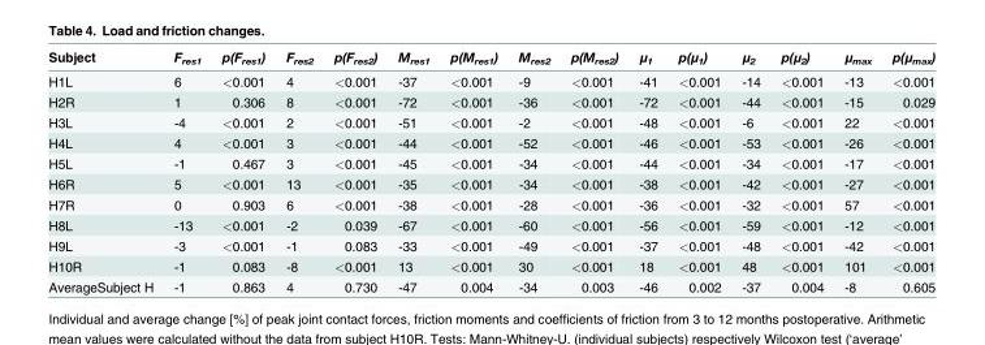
<table><thead><tr><td>Subject</td><td>F<sub>res1</sub></td><td>p(F<sub>res1</sub>)</td><td>F<sub>res2</sub></td><td>p(F<sub>res2</sub>)</td><td>M<sub>res1</sub></td><td>p(M<sub>res1</sub>)</td><td>M<sub>res2</sub></td><td>p(M<sub>res2</sub>)</td><td>μ<sub>1</sub></td><td>p(μ<sub>1</sub>)</td><td>μ<sub>2</sub></td><td>p(μ<sub>2</sub>)</td><td>μ<sub>max</sub></td><td>p(μ<sub>max</sub>)</td></tr></thead><tbody><tr><td>H1L</td><td>6</td><td>&lt;0.001</td><td>4</td><td>&lt;0.001</td><td>-37</td><td>&lt;0.001</td><td>-9</td><td>&lt;0.001</td><td>-41</td><td>&lt;0.001</td><td>-14</td><td>&lt;0.001</td><td>-13</td><td>&lt;0.001</td></tr><tr><td>H2R</td><td>1</td><td>0.306</td><td>8</td><td>&lt;0.001</td><td>-72</td><td>&lt;0.001</td><td>-36</td><td>&lt;0.001</td><td>-72</td><td>&lt;0.001</td><td>-44</td><td>&lt;0.001</td><td>-15</td><td>0.029</td></tr><tr><td>H3L</td><td>-4</td><td>&lt;0.001</td><td>2</td><td>&lt;0.001</td><td>-51</td><td>&lt;0.001</td><td>-2</td><td>&lt;0.001</td><td>-48</td><td>&lt;0.001</td><td>-6</td><td>&lt;0.001</td><td>22</td><td>&lt;0.001</td></tr><tr><td>H4L</td><td>4</td><td>&lt;0.001</td><td>3</td><td>&lt;0.001</td><td>-44</td><td>&lt;0.001</td><td>-52</td><td>&lt;0.001</td><td>-46</td><td>&lt;0.001</td><td>-53</td><td>&lt;0.001</td><td>-26</td><td>&lt;0.001</td></tr><tr><td>H5L</td><td>-1</td><td>0.467</td><td>3</td><td>&lt;0.001</td><td>-45</td><td>&lt;0.001</td><td>-34</td><td>&lt;0.001</td><td>-44</td><td>&lt;0.001</td><td>-34</td><td>&lt;0.001</td><td>-17</td><td>&lt;0.001</td></tr><tr><td>H6R</td><td>5</td><td>&lt;0.001</td><td>13</td><td>&lt;0.001</td><td>-35</td><td>&lt;0.001</td><td>-34</td><td>&lt;0.001</td><td>-38</td><td>&lt;0.001</td><td>-42</td><td>&lt;0.001</td><td>-27</td><td>&lt;0.001</td></tr><tr><td>H7R</td><td>0</td><td>0.903</td><td>6</td><td>&lt;0.001</td><td>-38</td><td>&lt;0.001</td><td>-28</td><td>&lt;0.001</td><td>-36</td><td>&lt;0.001</td><td>-32</td><td>&lt;0.001</td><td>57</td><td>&lt;0.001</td></tr><tr><td>H8L</td><td>-13</td><td>&lt;0.001</td><td>-2</td><td>0.039</td><td>-67</td><td>&lt;0.001</td><td>-60</td><td>&lt;0.001</td><td>-56</td><td>&lt;0.001</td><td>-59</td><td>&lt;0.001</td><td>-12</td><td>&lt;0.001</td></tr><tr><td>H9L</td><td>-3</td><td>&lt;0.001</td><td>-1</td><td>0.083</td><td>-33</td><td>&lt;0.001</td><td>-49</td><td>&lt;0.001</td><td>-37</td><td>&lt;0.001</td><td>-48</td><td>&lt;0.001</td><td>-42</td><td>&lt;0.001</td></tr><tr><td>H10R</td><td>-1</td><td>0.083</td><td>-8</td><td>&lt;0.001</td><td>13</td><td>&lt;0.001</td><td>30</td><td>&lt;0.001</td><td>18</td><td>&lt;0.001</td><td>48</td><td>&lt;0.001</td><td>101</td><td>&lt;0.001</td></tr><tr><td>AverageSubject H</td><td>-1</td><td>0.863</td><td>4</td><td>0.730</td><td>-47</td><td>0.004</td><td>-34</td><td>0.003</td><td>-46</td><td>0.002</td><td>-37</td><td>0.004</td><td>-8</td><td>0.605</td></tr></tbody></table>